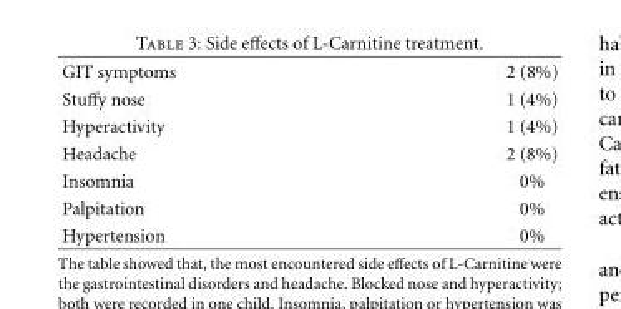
<table><tbody><tr><td>GIT symptoms</td><td>2 (8%)</td></tr><tr><td>Stuffy nose</td><td>1 (4%)</td></tr><tr><td>Hyperactivity</td><td>1 (4%)</td></tr><tr><td>Headache</td><td>2 (8%)</td></tr><tr><td>Insomnia</td><td>0%</td></tr><tr><td>Palpitation</td><td>0%</td></tr><tr><td>Hypertension</td><td>0%</td></tr></tbody></table>